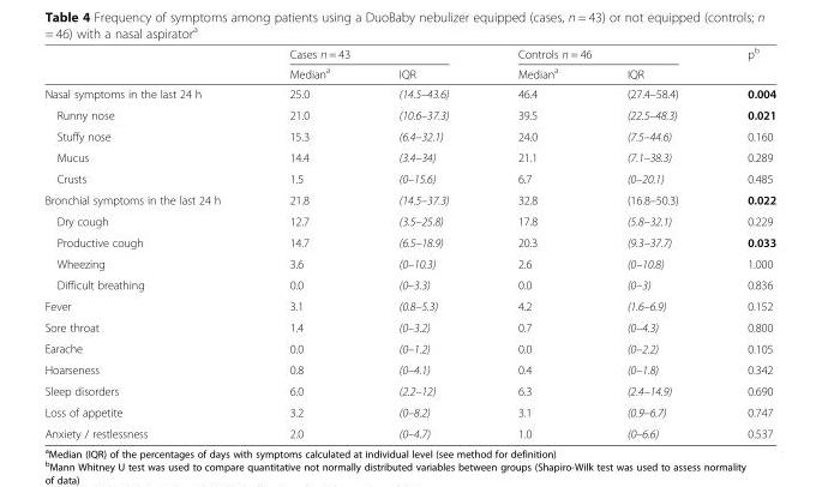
<table><thead><tr><td rowspan="2"></td><td colspan="2">Cases n = 43</td><td colspan="2">Controls n = 46</td><td rowspan="2">p<sup>b</sup></td></tr><tr><td>Median<sup>a</sup></td><td>IQR</td><td>Median<sup>a</sup></td><td>IQR</td></tr></thead><tbody><tr><td>Nasal symptoms in the last 24 h</td><td>25.0</td><td>(14.5–43.6)</td><td>46.4</td><td>(27.4–58.4)</td><td>0.004</td></tr><tr><td>Runny nose</td><td>21.0</td><td>(10.6–37.3)</td><td>39.5</td><td>(22.5–48.3)</td><td>0.021</td></tr><tr><td>Stuffy nose</td><td>15.3</td><td>(6.4–32.1)</td><td>24.0</td><td>(7.5–44.6)</td><td>0.160</td></tr><tr><td>Mucus</td><td>14.4</td><td>(3.4–34)</td><td>21.1</td><td>(7.1–38.3)</td><td>0.289</td></tr><tr><td>Crusts</td><td>1.5</td><td>(0–15.6)</td><td>6.7</td><td>(0–20.1)</td><td>0.485</td></tr><tr><td>Bronchial symptoms in the last 24 h</td><td>21.8</td><td>(14.5–37.3)</td><td>32.8</td><td>(16.8–50.3)</td><td>0.022</td></tr><tr><td>Dry cough</td><td>12.7</td><td>(3.5–25.8)</td><td>17.8</td><td>(5.8–32.1)</td><td>0.229</td></tr><tr><td>Productive cough</td><td>14.7</td><td>(6.5–18.9)</td><td>20.3</td><td>(9.3–37.7)</td><td>0.033</td></tr><tr><td>Wheezing</td><td>3.6</td><td>(0–10.3)</td><td>2.6</td><td>(0–10.8)</td><td>1.000</td></tr><tr><td>Difficult breathing</td><td>0.0</td><td>(0–3.3)</td><td>0.0</td><td>(0–3)</td><td>0.836</td></tr><tr><td>Fever</td><td>3.1</td><td>(0.8–5.3)</td><td>4.2</td><td>(1.6–6.9)</td><td>0.152</td></tr><tr><td>Sore throat</td><td>1.4</td><td>(0–3.2)</td><td>0.7</td><td>(0–4.3)</td><td>0.800</td></tr><tr><td>Earache</td><td>0.0</td><td>(0–1.2)</td><td>0.0</td><td>(0–2.2)</td><td>0.105</td></tr><tr><td>Hoarseness</td><td>0.8</td><td>(0–4.1)</td><td>0.4</td><td>(0–1.8)</td><td>0.342</td></tr><tr><td>Sleep disorders</td><td>6.0</td><td>(2.2–12)</td><td>6.3</td><td>(2.4–14.9)</td><td>0.690</td></tr><tr><td>Loss of appetite</td><td>3.2</td><td>(0–8.2)</td><td>3.1</td><td>(0.9–6.7)</td><td>0.747</td></tr><tr><td>Anxiety / restlessness</td><td>2.0</td><td>(0–4.7)</td><td>1.0</td><td>(0–6.6)</td><td>0.537</td></tr></tbody></table>